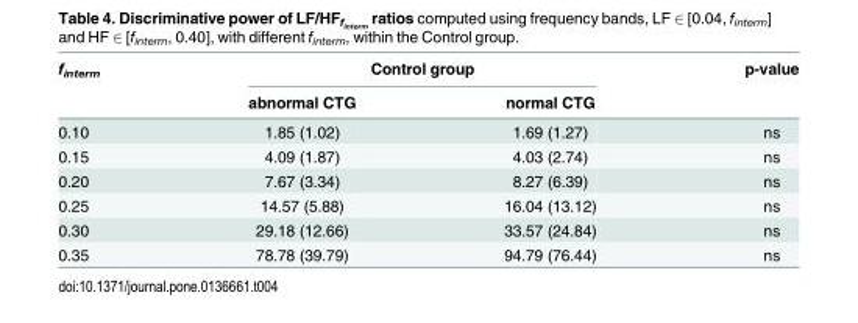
<table><thead><tr><td rowspan="2">f<sub>interm</sub></td><td colspan="2">Control group</td><td rowspan="2">p-value</td></tr><tr><td>abnormal CTG</td><td>normal CTG</td></tr></thead><tbody><tr><td>0.10</td><td>1.85 (1.02)</td><td>1.69 (1.27)</td><td>ns</td></tr><tr><td>0.15</td><td>4.09 (1.87)</td><td>4.03 (2.74)</td><td>ns</td></tr><tr><td>0.20</td><td>7.67 (3.34)</td><td>8.27 (6.39)</td><td>ns</td></tr><tr><td>0.25</td><td>14.57 (5.88)</td><td>16.04 (13.12)</td><td>ns</td></tr><tr><td>0.30</td><td>29.18 (12.66)</td><td>33.57 (24.84)</td><td>ns</td></tr><tr><td>0.35</td><td>78.78 (39.79)</td><td>94.79 (76.44)</td><td>ns</td></tr></tbody></table>